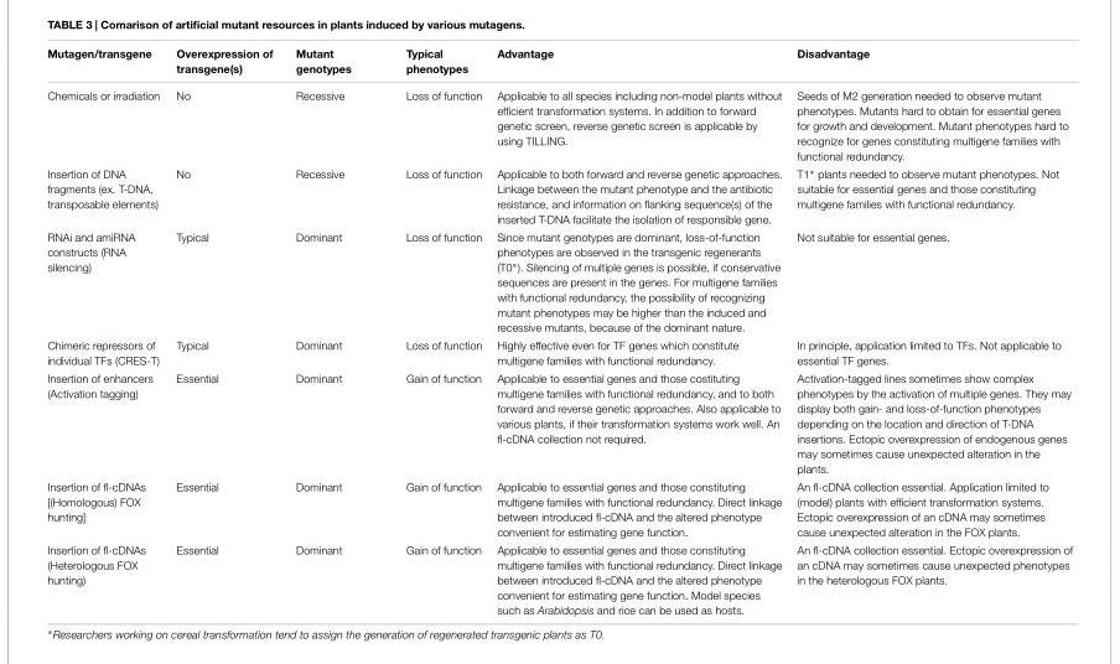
<table><thead><tr><td>Mutagen/transgene</td><td>Overexpression of transgene(s)</td><td>Mutant genotypes</td><td>Typical phenotypes</td><td>Advantage</td><td>Disadvantage</td></tr></thead><tbody><tr><td>Chemicals or irradiation</td><td>No</td><td>Recessive</td><td>Loss of function</td><td>Applicable to all species including non-model plants without efficient transformation systems. In addition to forward genetic screen, reverse genetic screen is applicable by using TILLING.</td><td>Seeds of M2 generation needed to observe mutant phenotypes. Mutants hard to obtain for essential genes for growth and development. Mutant phenotypes hard to recognize for genes constituting multigene families with functional redundancy.</td></tr><tr><td>Insertion of DNA fragments (ex. T-DNA, transposable elements)</td><td>No</td><td>Recessive</td><td>Loss of function</td><td>Applicable to both forward and reverse genetic approaches. Linkage between the mutant phenotype and the antibiotic resistance, and information on flanking sequence(s) of the inserted T-DNA facilitate the isolation of responsible gene.</td><td>T1∗ plants needed to observe mutant phenotypes. Not suitable for essential genes and those constituting multigene families with functional redundancy.</td></tr><tr><td>RNAi and amiRNA constructs (RNA silencing)</td><td>Typical</td><td>Dominant</td><td>Loss of function</td><td>Since mutant genotypes are dominant, loss-of-function phenotypes are observed in the transgenic regenerants (T0∗). Silencing of multiple genes is possible, if conservative sequences are present in the genes. For multigene families with functional redundancy, the possibility of recognizing mutant phenotypes may be higher than the induced and recessive mutants, because of the dominant nature.</td><td>Not suitable for essential genes.</td></tr><tr><td>Chimeric repressors of individual TFs (CRES-T)</td><td>Typical</td><td>Dominant</td><td>Loss of function</td><td>Highly effective even for TF genes which constitute multigene families with functional redundancy.</td><td>In principle, application limited to TFs. Not applicable to essential TF genes.</td></tr><tr><td>Insertion of enhancers (Activation tagging)</td><td>Essential</td><td>Dominant</td><td>Gain of function</td><td>Applicable to essential genes and those costituting multigene families with functional redundancy, and to both forward and reverse genetic approaches. Also applicable to various plants, if their transformation systems work well. An fl-cDNA collection not required.</td><td>Activation-tagged lines sometimes show complex phenotypes by the activation of multiple genes. They may display both gain- and loss-of-function phenotypes depending on the location and direction of T-DNA insertions. Ectopic overexpression of endogenous genes may sometimes cause unexpected alteration in the plants.</td></tr><tr><td>Insertion of fl-cDNAs [(Homologous) FOX hunting]</td><td>Essential</td><td>Dominant</td><td>Gain of function</td><td>Applicable to essential genes and those constituting multigene families with functional redundancy. Direct linkage between introduced fl-cDNA and the altered phenotype convenient for estimating gene function.</td><td>An fl-cDNA collection essential. Application limited to (model) plants with efficient transformation systems. Ectopic overexpression of an cDNA may sometimes cause unexpected alteration in the FOX plants.</td></tr><tr><td>Insertion of fl-cDNAs (Heterologous FOX hunting)</td><td>Essential</td><td>Dominant</td><td>Gain of function</td><td>Applicable to essential genes and those constituting multigene families with functional redundancy. Direct linkage between introduced fl-cDNA and the altered phenotype convenient for estimating gene function. Model species such as Arabidopsis and rice can be used as hosts.</td><td>An fl-cDNA collection essential. Ectopic overexpression of an cDNA may sometimes cause unexpected phenotypes in the heterologous FOX plants.</td></tr></tbody></table>